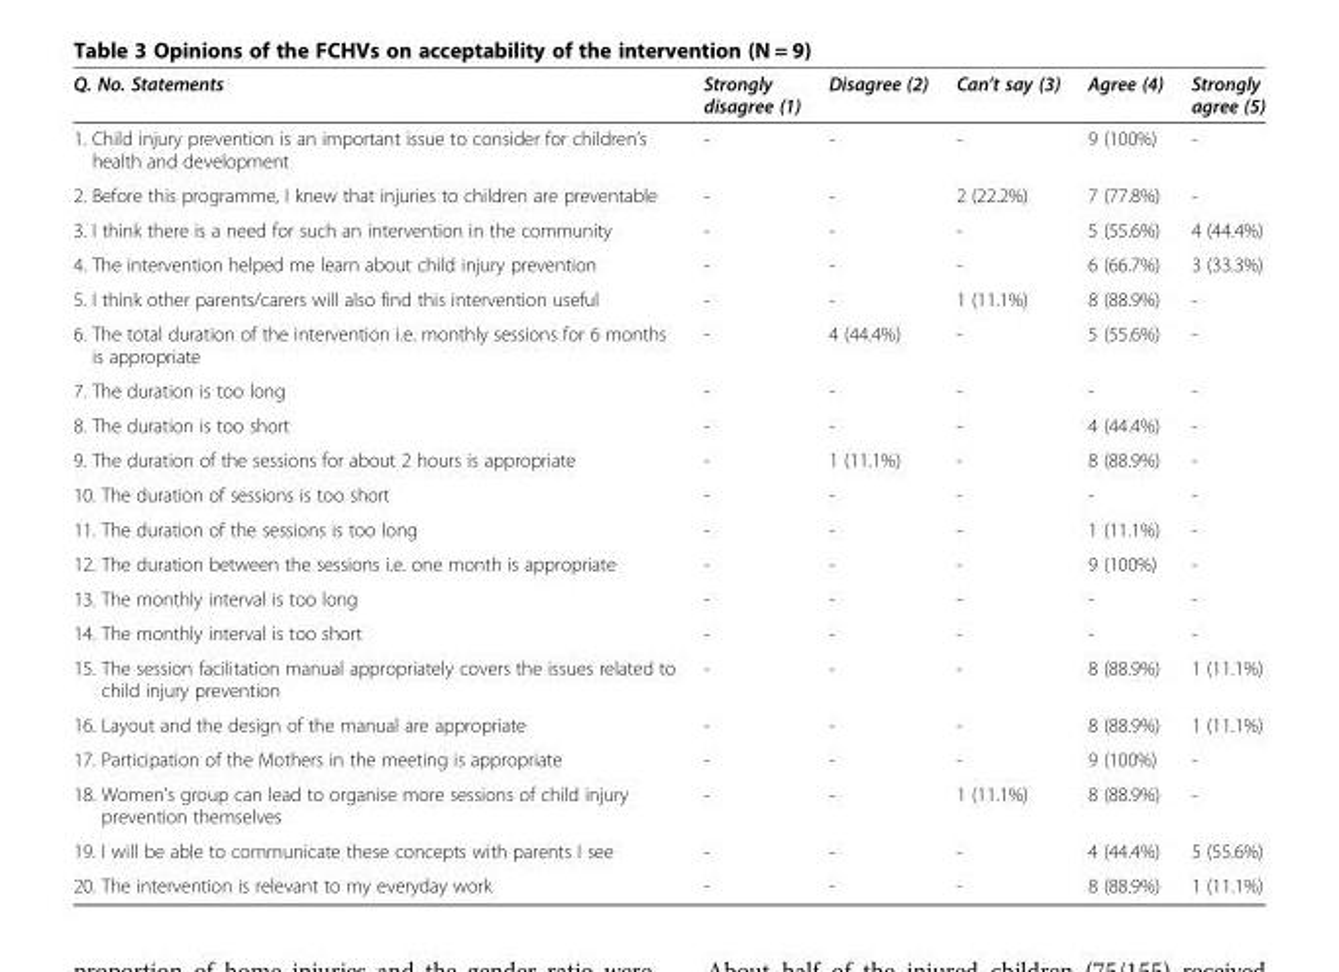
<table><thead><tr><td>Q. No. Statements</td><td>Strongly disagree (1)</td><td>Disagree (2)</td><td>Can’t say (3)</td><td>Agree (4)</td><td>Strongly agree (5)</td></tr></thead><tbody><tr><td>1. Child injury prevention is an important issue to consider for children’s health and development</td><td>-</td><td>-</td><td>-</td><td>9 (100%)</td><td>-</td></tr><tr><td>2. Before this programme, I knew that injuries to children are preventable</td><td>-</td><td>-</td><td>2 (22.2%)</td><td>7 (77.8%)</td><td>-</td></tr><tr><td>3. I think there is a need for such an intervention in the community</td><td>-</td><td>-</td><td>-</td><td>5 (55.6%)</td><td>4 (44.4%)</td></tr><tr><td>4. The intervention helped me learn about child injury prevention</td><td>-</td><td>-</td><td>-</td><td>6 (66.7%)</td><td>3 (33.3%)</td></tr><tr><td>5. I think other parents/carers will also find this intervention useful</td><td>-</td><td>-</td><td>1 (11.1%)</td><td>8 (88.9%)</td><td>-</td></tr><tr><td>6. The total duration of the intervention i.e. monthly sessions for 6 months is appropriate</td><td>-</td><td>4 (44.4%)</td><td>-</td><td>5 (55.6%)</td><td>-</td></tr><tr><td>7. The duration is too long</td><td>-</td><td>-</td><td>-</td><td>-</td><td>-</td></tr><tr><td>8. The duration is too short</td><td>-</td><td>-</td><td>-</td><td>4 (44.4%)</td><td>-</td></tr><tr><td>9. The duration of the sessions for about 2 hours is appropriate</td><td>-</td><td>1 (11.1%)</td><td>-</td><td>8 (88.9%)</td><td>-</td></tr><tr><td>10. The duration of sessions is too short</td><td>-</td><td>-</td><td>-</td><td>-</td><td>-</td></tr><tr><td>11. The duration of the sessions is too long</td><td>-</td><td>-</td><td>-</td><td>1 (11.1%)</td><td>-</td></tr><tr><td>12. The duration between the sessions i.e. one month is appropriate</td><td>-</td><td>-</td><td>-</td><td>9 (100%)</td><td>-</td></tr><tr><td>13. The monthly interval is too long</td><td>-</td><td>-</td><td>-</td><td>-</td><td>-</td></tr><tr><td>14. The monthly interval is too short</td><td>-</td><td>-</td><td>-</td><td>-</td><td>-</td></tr><tr><td>15. The session facilitation manual appropriately covers the issues related to child injury prevention</td><td>-</td><td>-</td><td>-</td><td>8 (88.9%)</td><td>1 (11.1%)</td></tr><tr><td>16. Layout and the design of the manual are appropriate</td><td>-</td><td>-</td><td>-</td><td>8 (88.9%)</td><td>1 (11.1%)</td></tr><tr><td>17. Participation of the Mothers in the meeting is appropriate</td><td>-</td><td>-</td><td>-</td><td>9 (100%)</td><td>-</td></tr><tr><td>18. Women’s group can lead to organise more sessions of child injury prevention themselves</td><td>-</td><td>-</td><td>1 (11.1%)</td><td>8 (88.9%)</td><td>-</td></tr><tr><td>19. I will be able to communicate these concepts with parents I see</td><td>-</td><td>-</td><td>-</td><td>4 (44.4%)</td><td>5 (55.6%)</td></tr><tr><td>20. The intervention is relevant to my everyday work</td><td>-</td><td>-</td><td>-</td><td>8 (88.9%)</td><td>1 (11.1%)</td></tr></tbody></table>